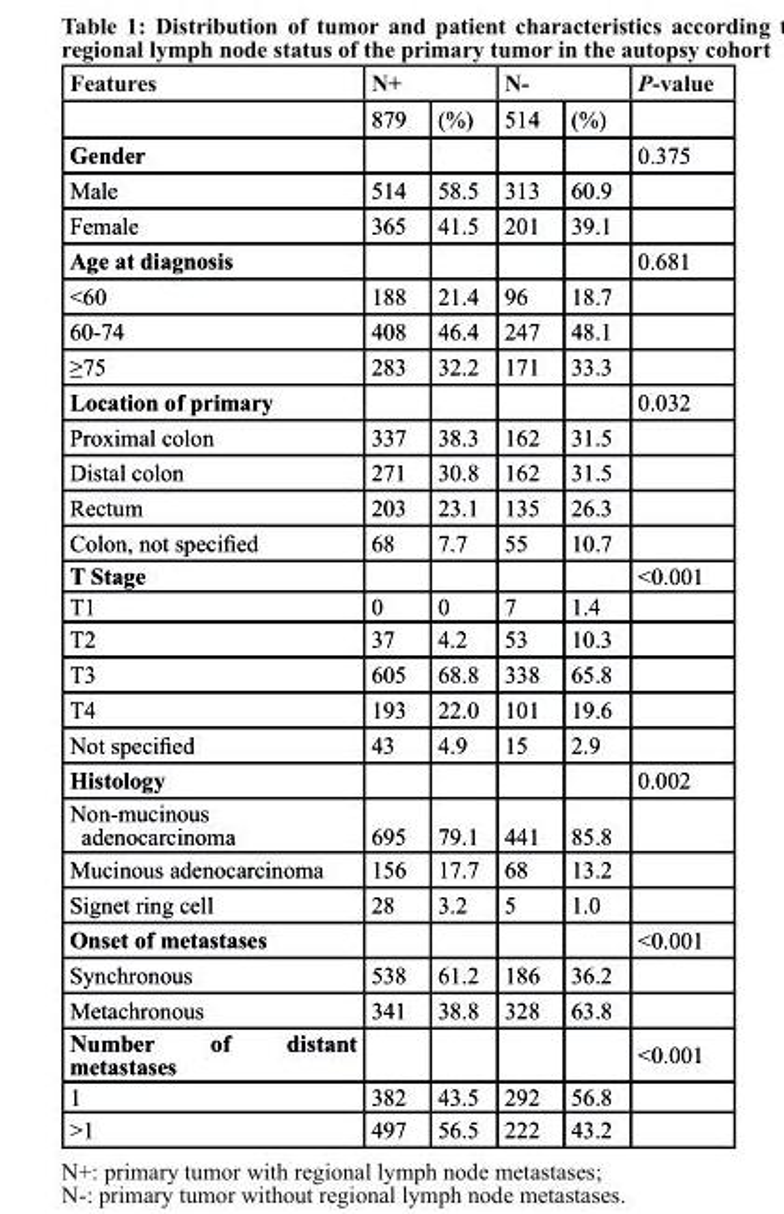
<table><thead><tr><td rowspan="2">Features</td><td colspan="2">n+</td><td colspan="2">n-</td><td rowspan="2">P-value</td></tr><tr><td>879</td><td>(%)</td><td>514</td><td>(%)</td></tr></thead><tbody><tr><td>Gender</td><td></td><td></td><td></td><td></td><td>0.375</td></tr><tr><td>Male</td><td>514</td><td>58.5</td><td>313</td><td>60.9</td><td></td></tr><tr><td>Female</td><td>365</td><td>41.5</td><td>201</td><td>39.1</td><td></td></tr><tr><td>Age at diagnosis</td><td></td><td></td><td></td><td></td><td>0.681</td></tr><tr><td>&lt;60</td><td>188</td><td>21.4</td><td>96</td><td>18.7</td><td></td></tr><tr><td>60-74</td><td>408</td><td>46.4</td><td>247</td><td>48.1</td><td></td></tr><tr><td>≥75</td><td>283</td><td>32.2</td><td>171</td><td>33.3</td><td></td></tr><tr><td>location of primary</td><td></td><td></td><td></td><td></td><td>0.032</td></tr><tr><td>Proximal colon</td><td>337</td><td>38.3</td><td>162</td><td>31.5</td><td></td></tr><tr><td>Distal colon</td><td>271</td><td>30.8</td><td>162</td><td>31.5</td><td></td></tr><tr><td>Rectum</td><td>203</td><td>23.1</td><td>135</td><td>26.3</td><td></td></tr><tr><td>Colon, not specified</td><td>68</td><td>7.7</td><td>55</td><td>10.7</td><td></td></tr><tr><td>t stage</td><td></td><td></td><td></td><td></td><td>&lt;0.001</td></tr><tr><td>T1</td><td>0</td><td>0</td><td>7</td><td>1.4</td><td></td></tr><tr><td>T2</td><td>37</td><td>4.2</td><td>53</td><td>10.3</td><td></td></tr><tr><td>T3</td><td>605</td><td>68.8</td><td>338</td><td>65.8</td><td></td></tr><tr><td>T4</td><td>193</td><td>22.0</td><td>101</td><td>19.6</td><td></td></tr><tr><td>Not specified</td><td>43</td><td>4.9</td><td>15</td><td>2.9</td><td></td></tr><tr><td>Histology</td><td></td><td></td><td></td><td></td><td>0.002</td></tr><tr><td>Non-mucinous adenocarcinoma</td><td>695</td><td>79.1</td><td>441</td><td>85.8</td><td></td></tr><tr><td>Mucinous adenocarcinoma</td><td>156</td><td>17.7</td><td>68</td><td>13.2</td><td></td></tr><tr><td>Signet ring cell</td><td>28</td><td>3.2</td><td>5</td><td>1.0</td><td></td></tr><tr><td>onset of metastases</td><td></td><td></td><td></td><td></td><td>&lt;0.001</td></tr><tr><td>Synchronous</td><td>538</td><td>61.2</td><td>186</td><td>36.2</td><td></td></tr><tr><td>Metachronous</td><td>341</td><td>38.8</td><td>328</td><td>63.8</td><td></td></tr><tr><td>number of distant metastases</td><td></td><td></td><td></td><td></td><td>&lt;0.001</td></tr><tr><td>1</td><td>382</td><td>43.5</td><td>292</td><td>56.8</td><td></td></tr><tr><td>&gt;1</td><td>497</td><td>56.5</td><td>222</td><td>43.2</td><td></td></tr></tbody></table>